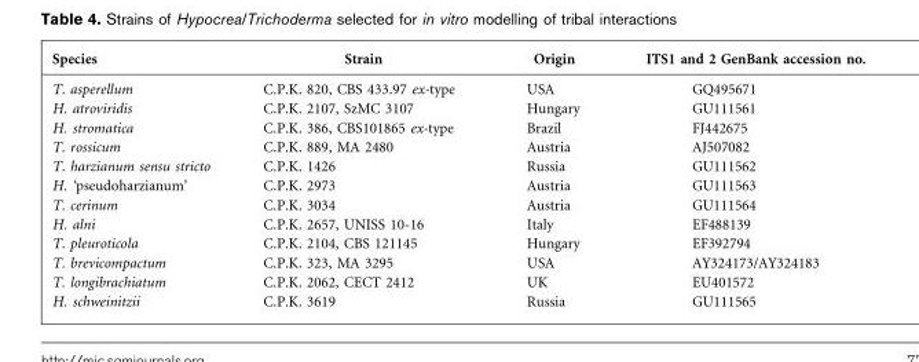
<table><thead><tr><td>Species</td><td>Strain</td><td>Origin</td><td>ITS1 and 2 GenBank accession no.</td></tr></thead><tbody><tr><td>T. asperellum</td><td>C.P.K. 820, CBS 433.97 ex-type</td><td>USA</td><td>GQ495671</td></tr><tr><td>H. atroviridis</td><td>C.P.K. 2107, SzMC 3107</td><td>Hungary</td><td>GU111561</td></tr><tr><td>H. stromatica</td><td>C.P.K. 386, CBS101865 ex-type</td><td>Brazil</td><td>FJ442675</td></tr><tr><td>T. rossicum</td><td>C.P.K. 889, MA 2480</td><td>Austria</td><td>AJ507082</td></tr><tr><td>T. harzianum sensu stricto</td><td>C.P.K. 1426</td><td>Russia</td><td>GU111562</td></tr><tr><td>H. ‘pseudoharzianum’</td><td>C.P.K. 2973</td><td>Austria</td><td>GU111563</td></tr><tr><td>T. cerinum</td><td>C.P.K. 3034</td><td>Austria</td><td>GU111564</td></tr><tr><td>H. alni</td><td>C.P.K. 2657, UNISS 10-16</td><td>Italy</td><td>EF488139</td></tr><tr><td>T. pleuroticola</td><td>C.P.K. 2104, CBS 121145</td><td>Hungary</td><td>EF392794</td></tr><tr><td>T. brevicompactum</td><td>C.P.K. 323, MA 3295</td><td>USA</td><td>AY324173/AY324183</td></tr><tr><td>T. longibrachiatum</td><td>C.P.K. 2062, CECT 2412</td><td>UK</td><td>EU401572</td></tr><tr><td>H. schweinitzii</td><td>C.P.K. 3619</td><td>Russia</td><td>GU111565</td></tr></tbody></table>